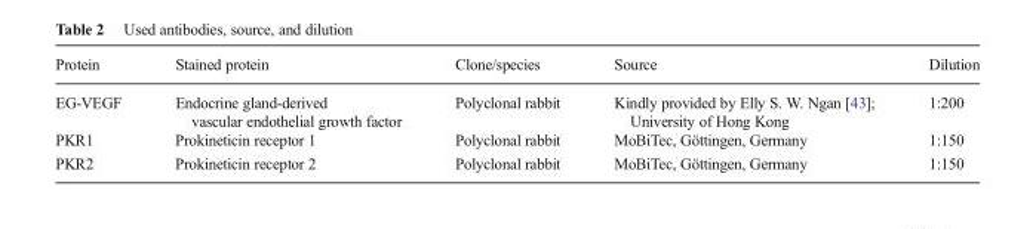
<table><thead><tr><td>Protein</td><td>Stained protein</td><td>Clone/species</td><td>Source</td><td>Dilution</td></tr></thead><tbody><tr><td>EG-VEGF</td><td>Endocrine gland-derived vascular endothelial growth factor</td><td>Polyclonal rabbit</td><td>Kindly provided by Elly S. W. Ngan [43]; University of Hong Kong</td><td>1:200</td></tr><tr><td>PKR1</td><td>Prokineticin receptor 1</td><td>Polyclonal rabbit</td><td>MoBiTec, Göttingen, Germany</td><td>1:150</td></tr><tr><td>PKR2</td><td>Prokineticin receptor 2</td><td>Polyclonal rabbit</td><td>MoBiTec, Göttingen, Germany</td><td>1:150</td></tr></tbody></table>